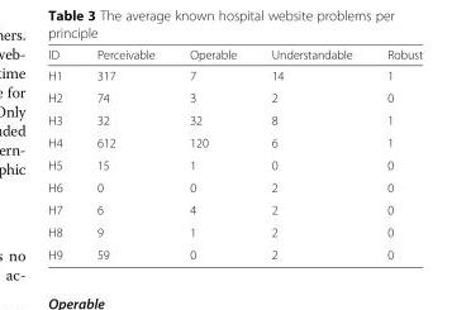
<table><thead><tr><td>ID</td><td>Perceivable</td><td>Operable</td><td>Understandable</td><td>Robust</td></tr></thead><tbody><tr><td>H1</td><td>317</td><td>7</td><td>14</td><td>1</td></tr><tr><td>H2</td><td>74</td><td>3</td><td>2</td><td>0</td></tr><tr><td>H3</td><td>32</td><td>32</td><td>8</td><td>1</td></tr><tr><td>H4</td><td>612</td><td>120</td><td>6</td><td>1</td></tr><tr><td>H5</td><td>15</td><td>1</td><td>0</td><td>0</td></tr><tr><td>H6</td><td>0</td><td>0</td><td>2</td><td>0</td></tr><tr><td>H7</td><td>6</td><td>4</td><td>2</td><td>0</td></tr><tr><td>H8</td><td>9</td><td>1</td><td>2</td><td>0</td></tr><tr><td>H9</td><td>59</td><td>0</td><td>2</td><td>0</td></tr></tbody></table>